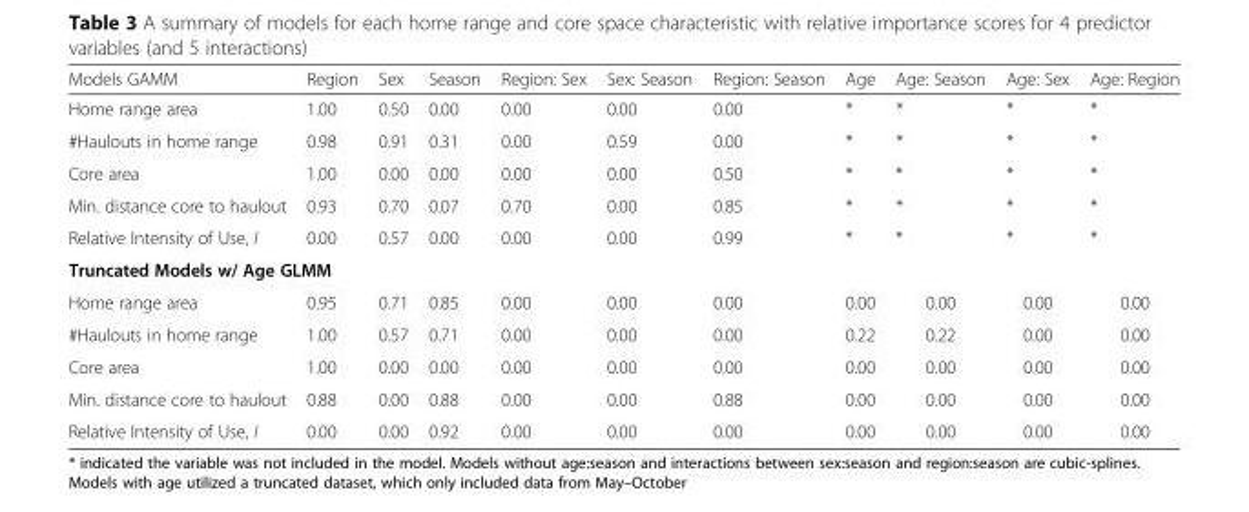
<table><thead><tr><td>Models GAMM</td><td>Region</td><td>Sex</td><td>Season</td><td>Region: Sex</td><td>Sex: Season</td><td>Region: Season</td><td>Age</td><td>Age: Season</td><td>Age: Sex</td><td>Age: Region</td></tr></thead><tbody><tr><td>Home range area</td><td>1.00</td><td>0.50</td><td>0.00</td><td>0.00</td><td>0.00</td><td>0.00</td><td>*</td><td>*</td><td>*</td><td>*</td></tr><tr><td>#Haulouts in home range</td><td>0.98</td><td>0.91</td><td>0.31</td><td>0.00</td><td>0.59</td><td>0.00</td><td>*</td><td>*</td><td>*</td><td>*</td></tr><tr><td>Core area</td><td>1.00</td><td>0.00</td><td>0.00</td><td>0.00</td><td>0.00</td><td>0.50</td><td>*</td><td>*</td><td>*</td><td>*</td></tr><tr><td>Min. distance core to haulout</td><td>0.93</td><td>0.70</td><td>0.07</td><td>0.70</td><td>0.00</td><td>0.85</td><td>*</td><td>*</td><td>*</td><td>*</td></tr><tr><td>Relative Intensity of Use, I</td><td>0.00</td><td>0.57</td><td>0.00</td><td>0.00</td><td>0.00</td><td>0.99</td><td>*</td><td>*</td><td>*</td><td>*</td></tr><tr><td colspan="11">Truncated Models w/ Age GLMM</td></tr><tr><td>Home range area</td><td>0.95</td><td>0.71</td><td>0.85</td><td>0.00</td><td>0.00</td><td>0.00</td><td>0.00</td><td>0.00</td><td>0.00</td><td>0.00</td></tr><tr><td>#Haulouts in home range</td><td>1.00</td><td>0.57</td><td>0.71</td><td>0.00</td><td>0.00</td><td>0.00</td><td>0.22</td><td>0.22</td><td>0.00</td><td>0.00</td></tr><tr><td>Core area</td><td>1.00</td><td>0.00</td><td>0.00</td><td>0.00</td><td>0.00</td><td>0.00</td><td>0.00</td><td>0.00</td><td>0.00</td><td>0.00</td></tr><tr><td>Min. distance core to haulout</td><td>0.88</td><td>0.00</td><td>0.88</td><td>0.00</td><td>0.00</td><td>0.88</td><td>0.00</td><td>0.00</td><td>0.00</td><td>0.00</td></tr><tr><td>Relative Intensity of Use, I</td><td>0.00</td><td>0.00</td><td>0.92</td><td>0.00</td><td>0.00</td><td>0.00</td><td>0.00</td><td>0.00</td><td>0.00</td><td>0.00</td></tr></tbody></table>